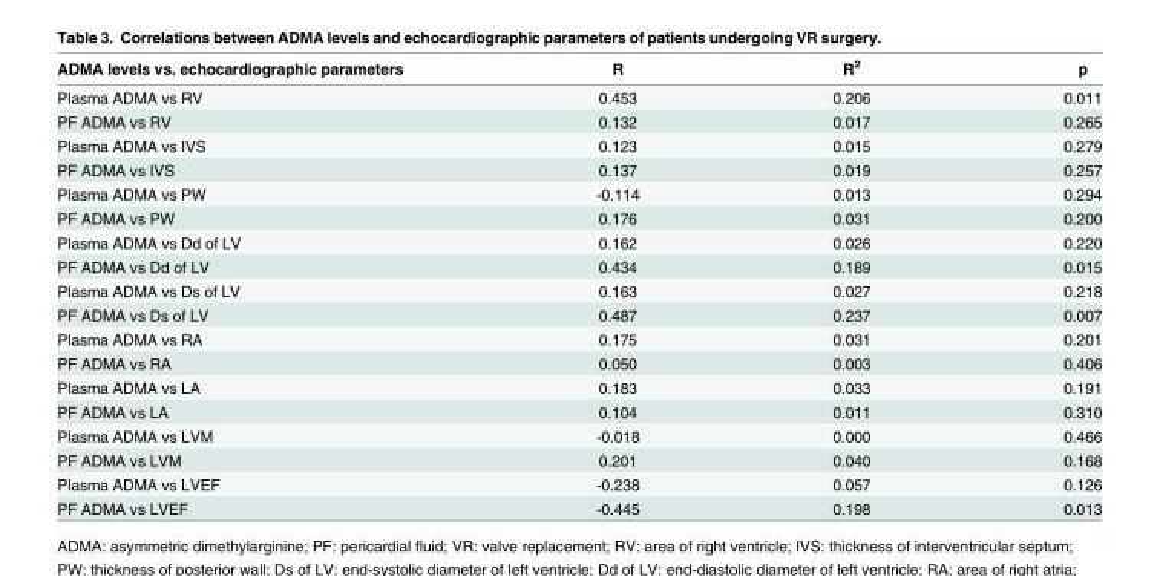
<table><thead><tr><td>ADMA levels vs. echocardiographic parameters</td><td>R</td><td>R<sup>2</sup></td><td>p</td></tr></thead><tbody><tr><td>Plasma ADMA vs RV</td><td>0.453</td><td>0.206</td><td>0.011</td></tr><tr><td>PF ADMA vs RV</td><td>0.132</td><td>0.017</td><td>0.265</td></tr><tr><td>Plasma ADMA vs IVS</td><td>0.123</td><td>0.015</td><td>0.279</td></tr><tr><td>PF ADMA vs IVS</td><td>0.137</td><td>0.019</td><td>0.257</td></tr><tr><td>Plasma ADMA vs PW</td><td>-0.114</td><td>0.013</td><td>0.294</td></tr><tr><td>PF ADMA vs PW</td><td>0.176</td><td>0.031</td><td>0.200</td></tr><tr><td>Plasma ADMA vs Dd of LV</td><td>0.162</td><td>0.026</td><td>0.220</td></tr><tr><td>PF ADMA vs Dd of LV</td><td>0.434</td><td>0.189</td><td>0.015</td></tr><tr><td>Plasma ADMA vs Ds of LV</td><td>0.163</td><td>0.027</td><td>0.218</td></tr><tr><td>PF ADMA vs Ds of LV</td><td>0.487</td><td>0.237</td><td>0.007</td></tr><tr><td>Plasma ADMA vs RA</td><td>0.175</td><td>0.031</td><td>0.201</td></tr><tr><td>PF ADMA vs RA</td><td>0.050</td><td>0.003</td><td>0.406</td></tr><tr><td>Plasma ADMA vs LA</td><td>0.183</td><td>0.033</td><td>0.191</td></tr><tr><td>PF ADMA vs LA</td><td>0.104</td><td>0.011</td><td>0.310</td></tr><tr><td>Plasma ADMA vs LVM</td><td>-0.018</td><td>0.000</td><td>0.466</td></tr><tr><td>PF ADMA vs LVM</td><td>0.201</td><td>0.040</td><td>0.168</td></tr><tr><td>Plasma ADMA vs LVEF</td><td>-0.238</td><td>0.057</td><td>0.126</td></tr><tr><td>PF ADMA vs LVEF</td><td>-0.445</td><td>0.198</td><td>0.013</td></tr></tbody></table>